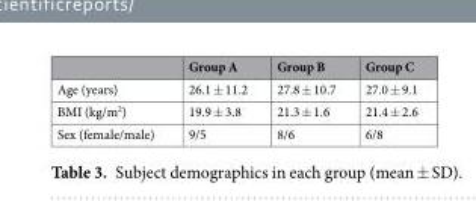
<table><thead><tr><td></td><td>Group A</td><td>Group B</td><td>Group C</td></tr></thead><tbody><tr><td>Age (years)</td><td>26.1 ± 11.2</td><td>27.8 ± 10.7</td><td>27.0 ± 9.1</td></tr><tr><td>BMI (kg/m<sup>2</sup>)</td><td>19.9 ± 3.8</td><td>21.3 ± 1.6</td><td>21.4 ± 2.6</td></tr><tr><td>Sex (female/male)</td><td>9/5</td><td>8/6</td><td>6/8</td></tr></tbody></table>